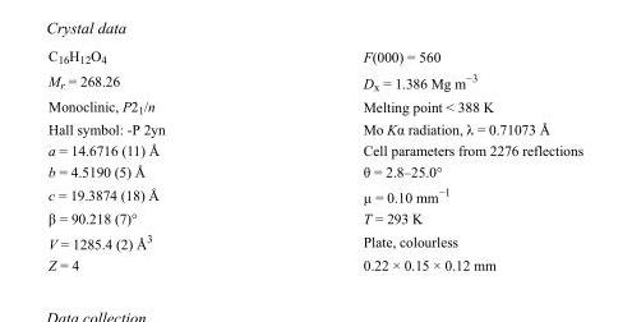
<table><tbody><tr><td>C<sub>16</sub>H<sub>12</sub>O<sub>4</sub></td><td>F(000) = 560</td></tr><tr><td>M<sub>r</sub> = 268.26</td><td>D<sub>x</sub> = 1.386 Mg m<sup>−3</sup></td></tr><tr><td>Monoclinic, P2<sub>1</sub>/n</td><td>Melting point &lt; 388 K</td></tr><tr><td>Hall symbol: -P 2yn</td><td>Mo Kα radiation, λ = 0.71073 Å</td></tr><tr><td>a = 14.6716 (11) Å</td><td>Cell parameters from 2276 reflections</td></tr><tr><td>b = 4.5190 (5) Å</td><td>θ = 2.8–25.0°</td></tr><tr><td>c = 19.3874 (18) Å</td><td>µ = 0.10 mm<sup>−1</sup></td></tr><tr><td>β = 90.218 (7)°</td><td>T = 293 K</td></tr><tr><td>V = 1285.4 (2) Å<sup>3</sup></td><td>Plate, colourless</td></tr><tr><td>Z = 4</td><td>0.22 × 0.15 × 0.12 mm</td></tr></tbody></table>